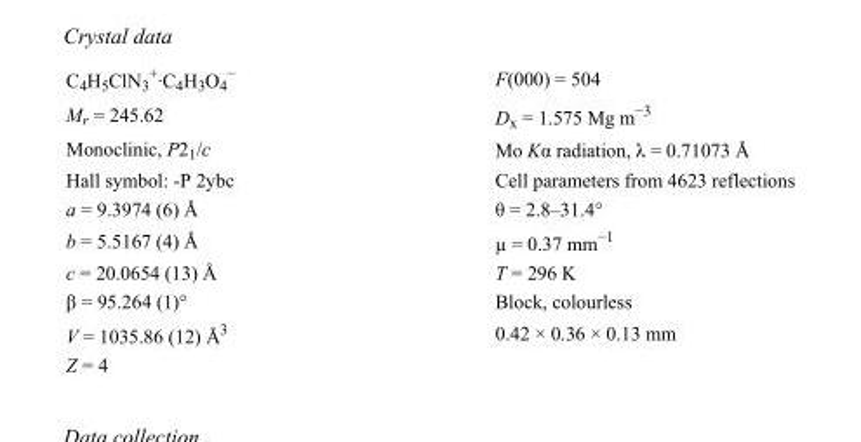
<table><tbody><tr><td>C<sub>4</sub>H<sub>5</sub>ClN<sub>3</sub> <sup>+</sup>·C<sub>4</sub>H<sub>3</sub>O<sub>4</sub> <sup>−</sup></td><td>F(000) = 504</td></tr><tr><td>M<sub>r</sub> = 245.62</td><td>D<sub>x</sub> = 1.575 Mg m<sup>−3</sup></td></tr><tr><td>Monoclinic, P2<sub>1</sub>/c</td><td>Mo Kα radiation, λ = 0.71073 Å</td></tr><tr><td>Hall symbol: -P 2ybc</td><td>Cell parameters from 4623 reflections</td></tr><tr><td>a = 9.3974 (6) Å</td><td>θ = 2.8–31.4°</td></tr><tr><td>b = 5.5167 (4) Å</td><td>µ = 0.37 mm<sup>−1</sup></td></tr><tr><td>c = 20.0654 (13) Å</td><td>T = 296 K</td></tr><tr><td>β = 95.264 (1)°</td><td>Block, colourless</td></tr><tr><td>V = 1035.86 (12) Å<sup>3</sup></td><td>0.42 × 0.36 × 0.13 mm</td></tr><tr><td>Z = 4</td><td></td></tr></tbody></table>